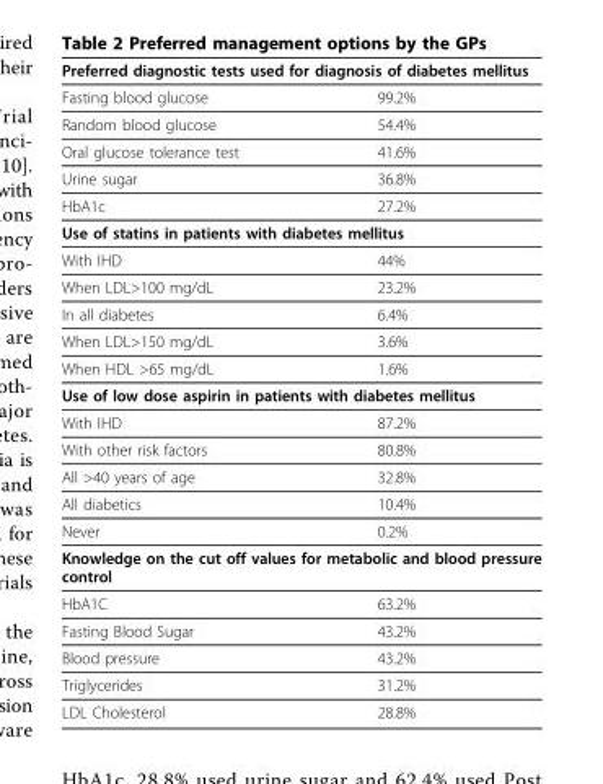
<table><thead><tr><td colspan="2">Preferred diagnostic tests used for diagnosis of diabetes mellitus</td></tr><tr><td>Fasting blood glucose</td><td>99.2%</td></tr></thead><tbody><tr><td>Random blood glucose</td><td>54.4%</td></tr><tr><td>Oral glucose tolerance test</td><td>41.6%</td></tr><tr><td>Urine sugar</td><td>36.8%</td></tr><tr><td>HbA1c</td><td>27.2%</td></tr><tr><td colspan="2">Use of statins in patients with diabetes mellitus</td></tr><tr><td>With IHD</td><td>44%</td></tr><tr><td>When LDL&gt;100 mg/dL</td><td>23.2%</td></tr><tr><td>In all diabetes</td><td>6.4%</td></tr><tr><td>When LDL&gt;150 mg/dL</td><td>3.6%</td></tr><tr><td>When HDL &gt;65 mg/dL</td><td>1.6%</td></tr><tr><td colspan="2">Use of low dose aspirin in patients with diabetes mellitus</td></tr><tr><td>With IHD</td><td>87.2%</td></tr><tr><td>With other risk factors</td><td>80.8%</td></tr><tr><td>All &gt;40 years of age</td><td>32.8%</td></tr><tr><td>All diabetics</td><td>10.4%</td></tr><tr><td>Never</td><td>0.2%</td></tr><tr><td colspan="2">Knowledge on the cut off values for metabolic and blood pressure control</td></tr><tr><td>HbA1C</td><td>63.2%</td></tr><tr><td>Fasting Blood Sugar</td><td>43.2%</td></tr><tr><td>Blood pressure</td><td>43.2%</td></tr><tr><td>Triglycerides</td><td>31.2%</td></tr><tr><td>LDL Cholesterol</td><td>28.8%</td></tr></tbody></table>